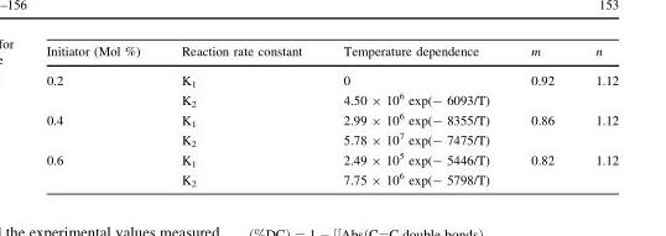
<table><thead><tr><td>Initiator (Mol %)</td><td>Reaction rate constant</td><td>Temperature dependence</td><td>m</td><td>n</td></tr></thead><tbody><tr><td rowspan="2">0.2</td><td>K<sub>1</sub></td><td>0</td><td rowspan="2">0.92</td><td rowspan="2">1.12</td></tr><tr><td>K<sub>2</sub></td><td>4.50 × 10<sup>6</sup> exp(- 6093/T)</td></tr><tr><td rowspan="2">0.4</td><td>K<sub>1</sub></td><td>2.99 × 10<sup>6</sup> exp(- 8355/T)</td><td rowspan="2">0.86</td><td rowspan="2">1.12</td></tr><tr><td>K<sub>2</sub></td><td>5.78 × 10<sup>7</sup> exp(- 7475/T)</td></tr><tr><td rowspan="2">0.6</td><td>K<sub>1</sub></td><td>2.49 × 10<sup>5</sup> exp(- 5446/T)</td><td rowspan="2">0.82</td><td rowspan="2">1.12</td></tr><tr><td>K<sub>2</sub></td><td>7.75 × 10<sup>6</sup> exp(- 5798/T)</td></tr></tbody></table>